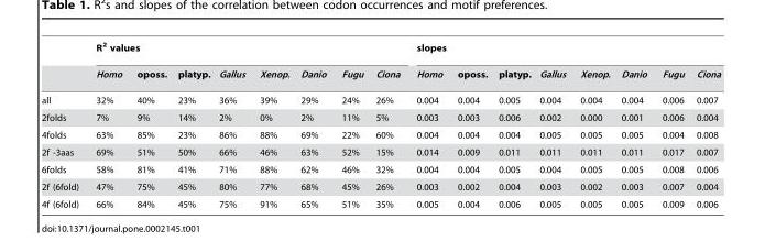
<table><thead><tr><td rowspan="2"></td><td colspan="8">R<sup>2</sup> values</td><td colspan="8">slopes</td></tr><tr><td>Homo</td><td>oposs.</td><td>platyp.</td><td>Gallus</td><td>Xenop.</td><td>Danio</td><td>Fugu</td><td>Ciona</td><td>Homo</td><td>oposs.</td><td>platyp.</td><td>Gallus</td><td>Xenop.</td><td>Danio</td><td>Fugu</td><td>Ciona</td></tr></thead><tbody><tr><td>all</td><td>32%</td><td>40%</td><td>23%</td><td>36%</td><td>39%</td><td>29%</td><td>24%</td><td>26%</td><td>0.004</td><td>0.004</td><td>0.005</td><td>0.004</td><td>0.004</td><td>0.004</td><td>0.006</td><td>0.007</td></tr><tr><td>2folds</td><td>7%</td><td>9%</td><td>14%</td><td>2%</td><td>0%</td><td>2%</td><td>11%</td><td>5%</td><td>0.003</td><td>0.003</td><td>0.006</td><td>0.002</td><td>0.000</td><td>0.001</td><td>0.006</td><td>0.004</td></tr><tr><td>4folds</td><td>63%</td><td>85%</td><td>23%</td><td>86%</td><td>88%</td><td>69%</td><td>22%</td><td>60%</td><td>0.004</td><td>0.004</td><td>0.004</td><td>0.005</td><td>0.005</td><td>0.005</td><td>0.004</td><td>0.008</td></tr><tr><td>2f -3aas</td><td>69%</td><td>51%</td><td>50%</td><td>66%</td><td>46%</td><td>63%</td><td>52%</td><td>15%</td><td>0.014</td><td>0.009</td><td>0.011</td><td>0.011</td><td>0.011</td><td>0.011</td><td>0.017</td><td>0.007</td></tr><tr><td>6folds</td><td>58%</td><td>81%</td><td>41%</td><td>71%</td><td>88%</td><td>62%</td><td>46%</td><td>32%</td><td>0.004</td><td>0.004</td><td>0.005</td><td>0.004</td><td>0.005</td><td>0.005</td><td>0.008</td><td>0.006</td></tr><tr><td>2f (6fold)</td><td>47%</td><td>75%</td><td>45%</td><td>80%</td><td>77%</td><td>68%</td><td>45%</td><td>26%</td><td>0.003</td><td>0.002</td><td>0.004</td><td>0.003</td><td>0.002</td><td>0.003</td><td>0.007</td><td>0.004</td></tr><tr><td>4f (6fold)</td><td>66%</td><td>84%</td><td>45%</td><td>75%</td><td>91%</td><td>65%</td><td>51%</td><td>35%</td><td>0.005</td><td>0.004</td><td>0.006</td><td>0.005</td><td>0.005</td><td>0.005</td><td>0.009</td><td>0.006</td></tr></tbody></table>